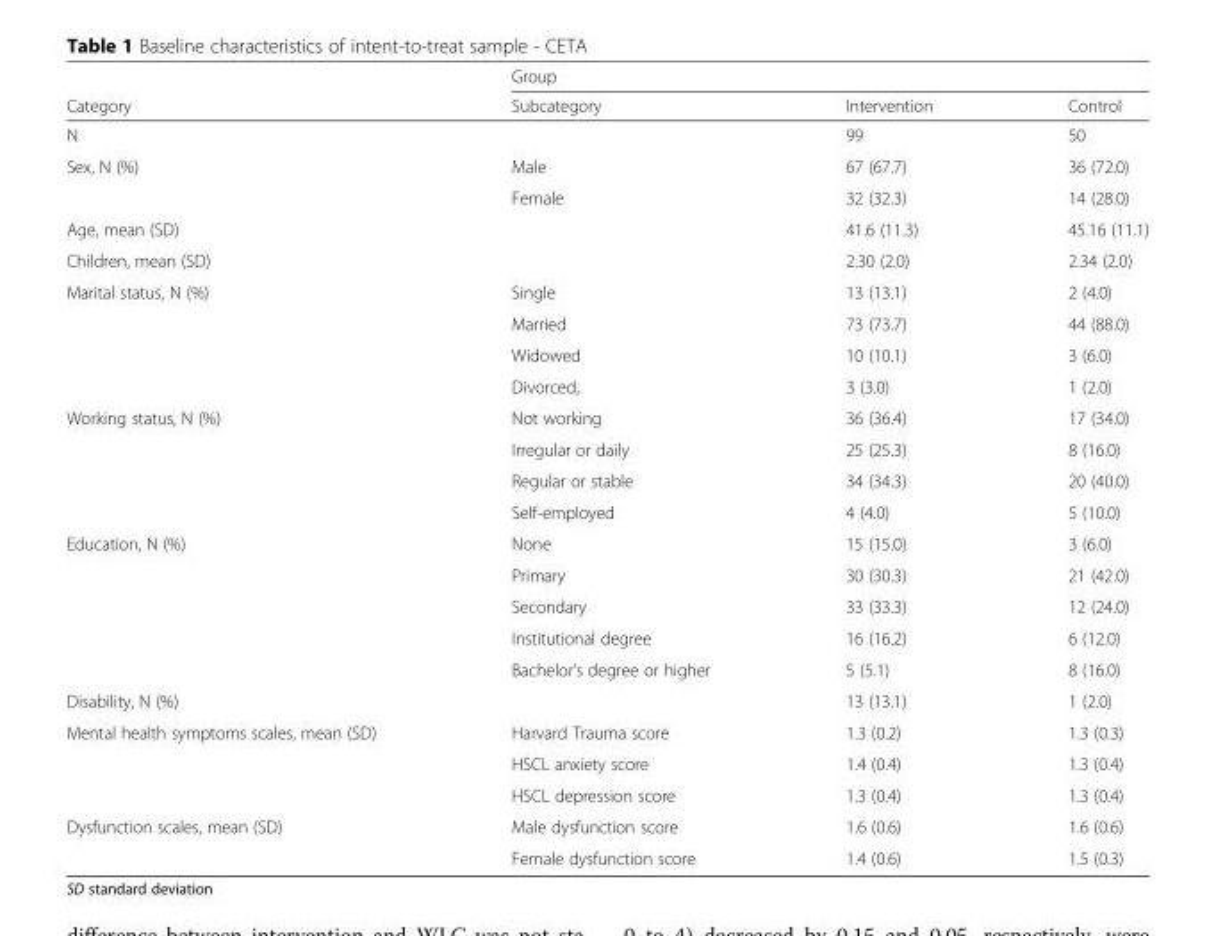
<table><thead><tr><td rowspan="2">Category</td><td colspan="3">Group</td></tr><tr><td>Subcategory</td><td>Intervention</td><td>Control</td></tr></thead><tbody><tr><td>N</td><td></td><td>99</td><td>50</td></tr><tr><td rowspan="2">Sex, N (%)</td><td>Male</td><td>67 (67.7)</td><td>36 (72.0)</td></tr><tr><td>Female</td><td>32 (32.3)</td><td>14 (28.0)</td></tr><tr><td>Age, mean (SD)</td><td></td><td>41.6 (11.3)</td><td>45.16 (11.1)</td></tr><tr><td>Children, mean (SD)</td><td></td><td>2.30 (2.0)</td><td>2.34 (2.0)</td></tr><tr><td rowspan="4">Marital status, N (%)</td><td>Single</td><td>13 (13.1)</td><td>2 (4.0)</td></tr><tr><td>Married</td><td>73 (73.7)</td><td>44 (88.0)</td></tr><tr><td>Widowed</td><td>10 (10.1)</td><td>3 (6.0)</td></tr><tr><td>Divorced,</td><td>3 (3.0)</td><td>1 (2.0)</td></tr><tr><td rowspan="4">Working status, N (%)</td><td>Not working</td><td>36 (36.4)</td><td>17 (34.0)</td></tr><tr><td>Irregular or daily</td><td>25 (25.3)</td><td>8 (16.0)</td></tr><tr><td>Regular or stable</td><td>34 (34.3)</td><td>20 (40.0)</td></tr><tr><td>Self-employed</td><td>4 (4.0)</td><td>5 (10.0)</td></tr><tr><td rowspan="5">Education, N (%)</td><td>None</td><td>15 (15.0)</td><td>3 (6.0)</td></tr><tr><td>Primary</td><td>30 (30.3)</td><td>21 (42.0)</td></tr><tr><td>Secondary</td><td>33 (33.3)</td><td>12 (24.0)</td></tr><tr><td>Institutional degree</td><td>16 (16.2)</td><td>6 (12.0)</td></tr><tr><td>Bachelor’s degree or higher</td><td>5 (5.1)</td><td>8 (16.0)</td></tr><tr><td>Disability, N (%)</td><td></td><td>13 (13.1)</td><td>1 (2.0)</td></tr><tr><td rowspan="3">Mental health symptoms scales, mean (SD)</td><td>Harvard Trauma score</td><td>1.3 (0.2)</td><td>1.3 (0.3)</td></tr><tr><td>HSCL anxiety score</td><td>1.4 (0.4)</td><td>1.3 (0.4)</td></tr><tr><td>HSCL depression score</td><td>1.3 (0.4)</td><td>1.3 (0.4)</td></tr><tr><td rowspan="2">Dysfunction scales, mean (SD)</td><td>Male dysfunction score</td><td>1.6 (0.6)</td><td>1.6 (0.6)</td></tr><tr><td>Female dysfunction score</td><td>1.4 (0.6)</td><td>1.5 (0.3)</td></tr></tbody></table>